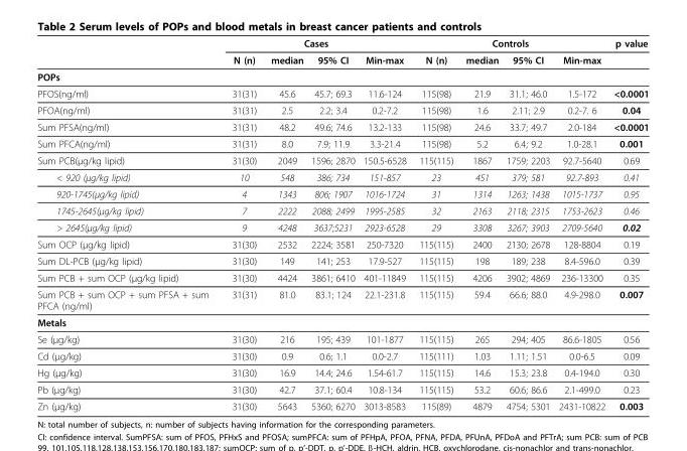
<table><thead><tr><td rowspan="2"></td><td colspan="4">Cases</td><td colspan="4">Controls</td><td rowspan="2">p value</td></tr><tr><td>N (n)</td><td>median</td><td>95% CI</td><td>Min-max</td><td>N (n)</td><td>median</td><td>95% CI</td><td>Min-max</td></tr></thead><tbody><tr><td colspan="10">POPs</td></tr><tr><td>PFOS(ng/ml)</td><td>31(31)</td><td>45.6</td><td>45.7; 69.3</td><td>11.6-124</td><td>115(98)</td><td>21.9</td><td>31.1; 46.0</td><td>1.5-172</td><td>&lt;0.0001</td></tr><tr><td>PFOA(ng/ml)</td><td>31(31)</td><td>2.5</td><td>2.2; 3.4</td><td>0.2-7.2</td><td>115(98)</td><td>1.6</td><td>2.11; 2.9</td><td>0.2-7. 6</td><td>0.04</td></tr><tr><td>Sum PFSA(ng/ml)</td><td>31(31)</td><td>48.2</td><td>49.6; 74.6</td><td>13.2-133</td><td>115(98)</td><td>24.6</td><td>33.7; 49.7</td><td>2.0-184</td><td>&lt;0.0001</td></tr><tr><td>Sum PFCA(ng/ml)</td><td>31(31)</td><td>8.0</td><td>7.9; 11.9</td><td>3.3-21.4</td><td>115(98)</td><td>5.2</td><td>6.4; 9.2</td><td>1.0-28.1</td><td>0.001</td></tr><tr><td>Sum PCB(μg/kg lipid)</td><td>31(30)</td><td>2049</td><td>1596; 2870</td><td>150.5-6528</td><td>115(115)</td><td>1867</td><td>1759; 2203</td><td>92.7-5640</td><td>0.69</td></tr><tr><td>&lt; 920 (μg/kg lipid)</td><td>10</td><td>548</td><td>386; 734</td><td>151-857</td><td>23</td><td>451</td><td>379; 581</td><td>92.7-893</td><td>0.41</td></tr><tr><td>920-1745(μg/kg lipid)</td><td>4</td><td>1343</td><td>806; 1907</td><td>1016-1724</td><td>31</td><td>1314</td><td>1263; 1438</td><td>1015-1737</td><td>0.95</td></tr><tr><td>1745-2645(μg/kg lipid)</td><td>7</td><td>2222</td><td>2088; 2499</td><td>1995-2585</td><td>32</td><td>2163</td><td>2118; 2315</td><td>1753-2623</td><td>0.46</td></tr><tr><td>&gt; 2645(μg/kg lipid)</td><td>9</td><td>4248</td><td>3637;5231</td><td>2923-6528</td><td>29</td><td>3308</td><td>3267; 3903</td><td>2709-5640</td><td>0.02</td></tr><tr><td>Sum OCP (μg/kg lipid)</td><td>31(30)</td><td>2532</td><td>2224; 3581</td><td>250-7320</td><td>115(115)</td><td>2400</td><td>2130; 2678</td><td>128-8804</td><td>0.19</td></tr><tr><td>Sum DL-PCB (μg/kg lipid)</td><td>31(30)</td><td>149</td><td>141; 253</td><td>17.9-527</td><td>115(115)</td><td>198</td><td>189; 238</td><td>8.4-596.0</td><td>0.39</td></tr><tr><td>Sum PCB + sum OCP (μg/kg lipid)</td><td>31(30)</td><td>4424</td><td>3861; 6410</td><td>401-11849</td><td>115(115)</td><td>4206</td><td>3902; 4869</td><td>236-13300</td><td>0.35</td></tr><tr><td>Sum PCB + sum OCP + sum PFSA + sum PFCA (ng/ml)</td><td>31(31)</td><td>81.0</td><td>83.1; 124</td><td>22.1-231.8</td><td>115(115)</td><td>59.4</td><td>66.6; 88.0</td><td>4.9-298.0</td><td>0.007</td></tr><tr><td colspan="10">Metals</td></tr><tr><td>Se (μg/kg)</td><td>31(30)</td><td>216</td><td>195; 439</td><td>101-1877</td><td>115(115)</td><td>265</td><td>294; 405</td><td>86.6-1805</td><td>0.56</td></tr><tr><td>Cd (μg/kg)</td><td>31(30)</td><td>0.9</td><td>0.6; 1.1</td><td>0.0-2.7</td><td>115(111)</td><td>1.03</td><td>1.11; 1.51</td><td>0.0-6.5</td><td>0.09</td></tr><tr><td>Hg (μg/kg)</td><td>31(30)</td><td>16.9</td><td>14.4; 24.6</td><td>1.54-61.7</td><td>115(115)</td><td>14.6</td><td>15.3; 23.8</td><td>0.4-194.0</td><td>0.30</td></tr><tr><td>Pb (μg/kg)</td><td>31(30)</td><td>42.7</td><td>37.1; 60.4</td><td>10.8-134</td><td>115(115)</td><td>53.2</td><td>60.6; 86.6</td><td>2.1-499.0</td><td>0.23</td></tr><tr><td>Zn (μg/kg)</td><td>31(30)</td><td>5643</td><td>5360; 6270</td><td>3013-8583</td><td>115(89)</td><td>4879</td><td>4754; 5301</td><td>2431-10822</td><td>0.003</td></tr></tbody></table>